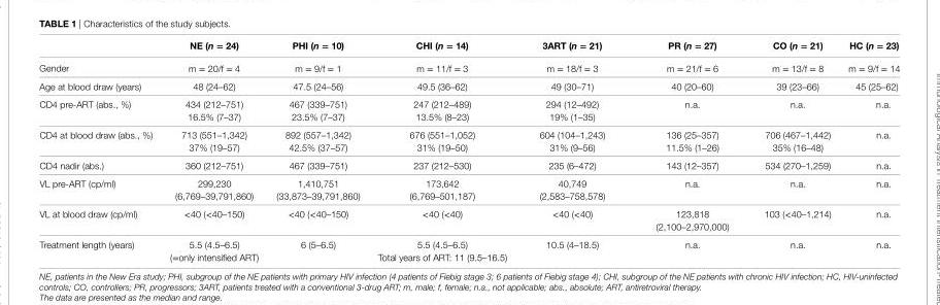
<table><thead><tr><td></td><td>ne (n = 24)</td><td>Phi (n = 10)</td><td>chi (n = 14)</td><td>3arT (n = 21)</td><td>Pr (n = 27)</td><td>cO (n = 21)</td><td>hc (n = 23)</td></tr></thead><tbody><tr><td>Gender</td><td>m = 20/f = 4</td><td>m = 9/f = 1</td><td>m = 11/f = 3</td><td>m = 18/f = 3</td><td>m = 21/f = 6</td><td>m = 13/f = 8</td><td>m = 9/f = 14</td></tr><tr><td>Age at blood draw (years)</td><td>48 (24–62)</td><td>47.5 (24–56)</td><td>49.5 (36–62)</td><td>49 (30–71)</td><td>40 (20–60)</td><td>39 (23–66)</td><td>45 (25–62)</td></tr><tr><td>CD4 pre-ART (abs., %)</td><td>434 (212–751) 16.5% (7–37)</td><td>467 (339–751) 23.5% (7–37)</td><td>247 (212–489) 13.5% (8–23)</td><td>294 (12–492) 19% (1–35)</td><td>n.a.</td><td>n.a.</td><td>n.a.</td></tr><tr><td>CD4 at blood draw (abs., %)</td><td>713 (551–1,342) 37% (19–57)</td><td>892 (557–1,342) 42.5% (37–57)</td><td>676 (551–1,052) 31% (19–50)</td><td>604 (104–1,243) 31% (9–56)</td><td>136 (25–357) 11.5% (1–26)</td><td>706 (467–1,442) 35% (16–48)</td><td>n.a.</td></tr><tr><td>CD4 nadir (abs.)</td><td>360 (212–751)</td><td>467 (339–751)</td><td>237 (212–530)</td><td>235 (6–472)</td><td>143 (12–357)</td><td>534 (270–1,259)</td><td>n.a.</td></tr><tr><td>VL pre-ART (cp/ml)</td><td>299,230 (6,769–39,791,860)</td><td>1,410,751 (33,873–39,791,860)</td><td>173,642 (6,769–501,187)</td><td>40,749 (2,583–758,578)</td><td>n.a.</td><td>n.a.</td><td>n.a.</td></tr><tr><td>VL at blood draw (cp/ml)</td><td>&lt;40 (&lt;40–150)</td><td>&lt;40 (&lt;40–150)</td><td>&lt;40 (&lt;40)</td><td>&lt;40 (&lt;40)</td><td>123,818 (2,100–2,970,000)</td><td>103 (&lt;40–1,214)</td><td>n.a.</td></tr><tr><td>Treatment length (years)</td><td>5.5 (4.5–6.5) (=only intensified ART)</td><td>6 (5–6.5)</td><td>5.5 (4.5–6.5) Total years of ART: 11 (9.5–16.5)</td><td>10.5 (4–18.5)</td><td>n.a.</td><td>n.a.</td><td>n.a.</td></tr></tbody></table>